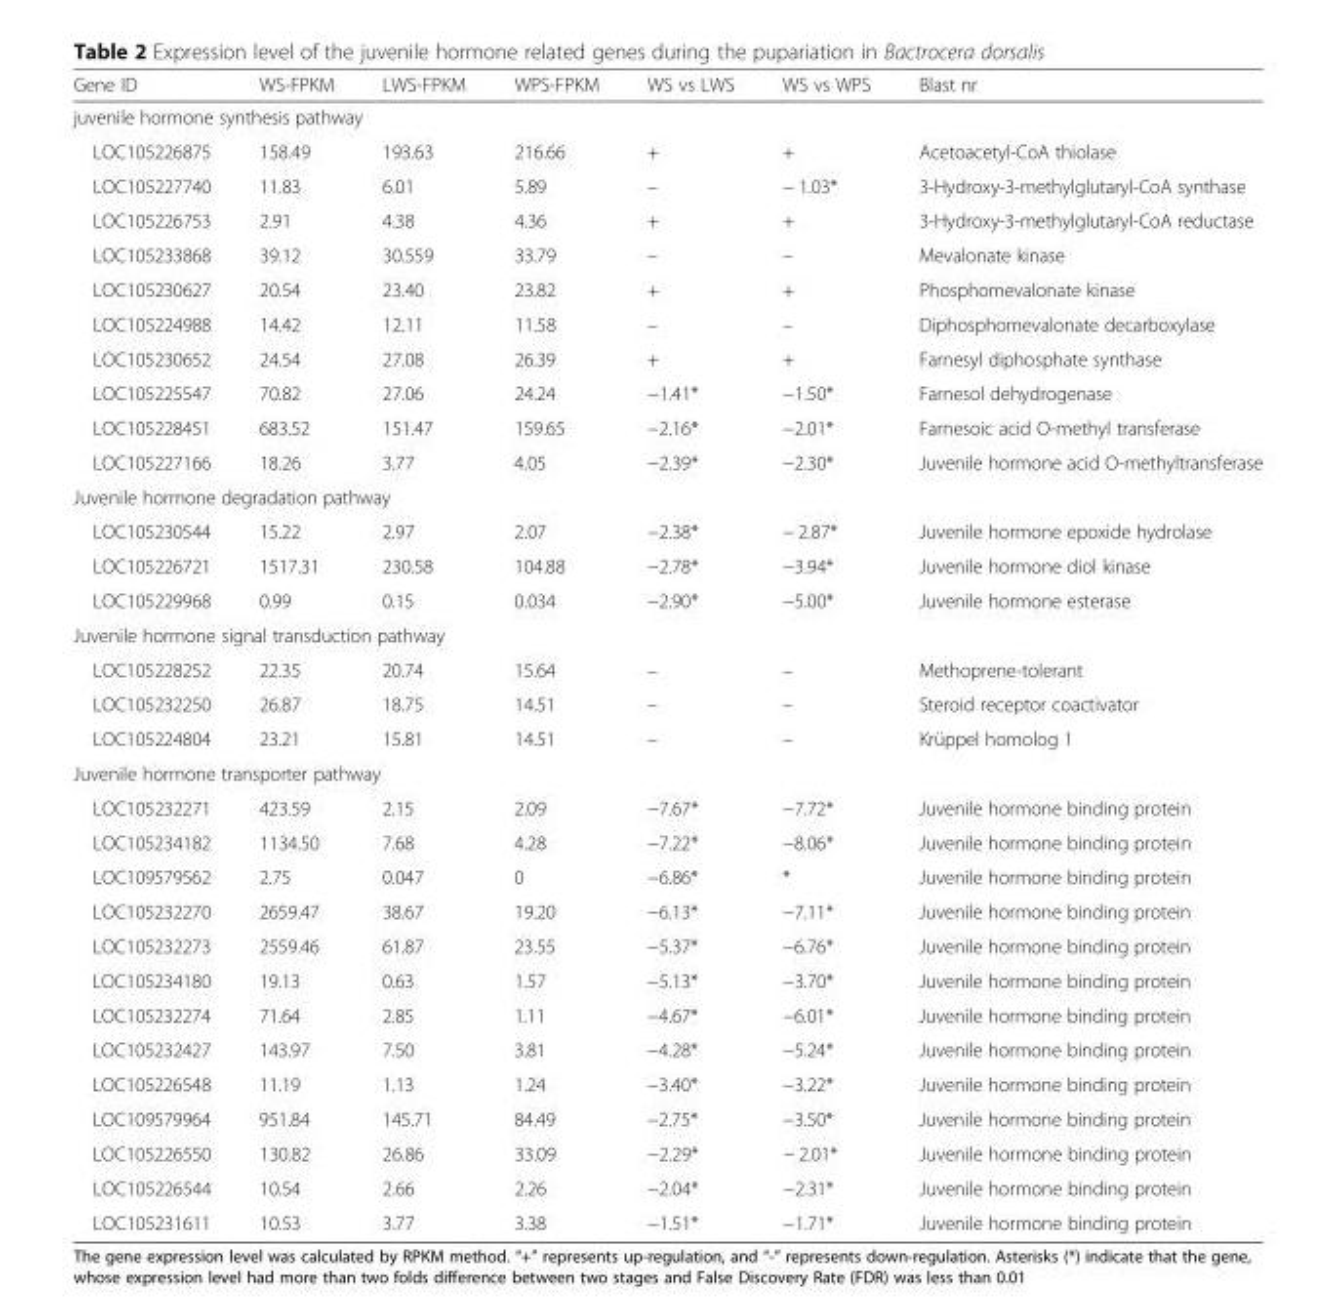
<table><thead><tr><td>Gene ID</td><td>WS-FPKM</td><td>LWS-FPKM</td><td>WPS-FPKM</td><td>WS vs LWS</td><td>WS vs WPS</td><td>Blast nr</td></tr></thead><tbody><tr><td colspan="7">juvenile hormone synthesis pathway</td></tr><tr><td>LOC105226875</td><td>158.49</td><td>193.63</td><td>216.66</td><td>+</td><td>+</td><td>Acetoacetyl-CoA thiolase</td></tr><tr><td>LOC105227740</td><td>11.83</td><td>6.01</td><td>5.89</td><td>–</td><td>− 1.03*</td><td>3-Hydroxy-3-methylglutaryl-CoA synthase</td></tr><tr><td>LOC105226753</td><td>2.91</td><td>4.38</td><td>4.36</td><td>+</td><td>+</td><td>3-Hydroxy-3-methylglutaryl-CoA reductase</td></tr><tr><td>LOC105233868</td><td>39.12</td><td>30.559</td><td>33.79</td><td>–</td><td>–</td><td>Mevalonate kinase</td></tr><tr><td>LOC105230627</td><td>20.54</td><td>23.40</td><td>23.82</td><td>+</td><td>+</td><td>Phosphomevalonate kinase</td></tr><tr><td>LOC105224988</td><td>14.42</td><td>12.11</td><td>11.58</td><td>–</td><td>–</td><td>Diphosphomevalonate decarboxylase</td></tr><tr><td>LOC105230652</td><td>24.54</td><td>27.08</td><td>26.39</td><td>+</td><td>+</td><td>Farnesyl diphosphate synthase</td></tr><tr><td>LOC105225547</td><td>70.82</td><td>27.06</td><td>24.24</td><td>−1.41*</td><td>−1.50*</td><td>Farnesol dehydrogenase</td></tr><tr><td>LOC105228451</td><td>683.52</td><td>151.47</td><td>159.65</td><td>−2.16*</td><td>−2.01*</td><td>Farnesoic acid O-methyl transferase</td></tr><tr><td>LOC105227166</td><td>18.26</td><td>3.77</td><td>4.05</td><td>−2.39*</td><td>−2.30*</td><td>Juvenile hormone acid O-methyltransferase</td></tr><tr><td colspan="7">Juvenile hormone degradation pathway</td></tr><tr><td>LOC105230544</td><td>15.22</td><td>2.97</td><td>2.07</td><td>−2.38*</td><td>− 2.87*</td><td>Juvenile hormone epoxide hydrolase</td></tr><tr><td>LOC105226721</td><td>1517.31</td><td>230.58</td><td>104.88</td><td>−2.78*</td><td>−3.94*</td><td>Juvenile hormone diol kinase</td></tr><tr><td>LOC105229968</td><td>0.99</td><td>0.15</td><td>0.034</td><td>−2.90*</td><td>−5.00*</td><td>Juvenile hormone esterase</td></tr><tr><td colspan="7">Juvenile hormone signal transduction pathway</td></tr><tr><td>LOC105228252</td><td>22.35</td><td>20.74</td><td>15.64</td><td>–</td><td>–</td><td>Methoprene-tolerant</td></tr><tr><td>LOC105232250</td><td>26.87</td><td>18.75</td><td>14.51</td><td>–</td><td>–</td><td>Steroid receptor coactivator</td></tr><tr><td>LOC105224804</td><td>23.21</td><td>15.81</td><td>14.51</td><td>–</td><td>–</td><td>Krüppel homolog 1</td></tr><tr><td colspan="7">Juvenile hormone transporter pathway</td></tr><tr><td>LOC105232271</td><td>423.59</td><td>2.15</td><td>2.09</td><td>−7.67*</td><td>−7.72*</td><td>Juvenile hormone binding protein</td></tr><tr><td>LOC105234182</td><td>1134.50</td><td>7.68</td><td>4.28</td><td>−7.22*</td><td>−8.06*</td><td>Juvenile hormone binding protein</td></tr><tr><td>LOC109579562</td><td>2.75</td><td>0.047</td><td>0</td><td>−6.86*</td><td>*</td><td>Juvenile hormone binding protein</td></tr><tr><td>LOC105232270</td><td>2659.47</td><td>38.67</td><td>19.20</td><td>−6.13*</td><td>−7.11*</td><td>Juvenile hormone binding protein</td></tr><tr><td>LOC105232273</td><td>2559.46</td><td>61.87</td><td>23.55</td><td>−5.37*</td><td>−6.76*</td><td>Juvenile hormone binding protein</td></tr><tr><td>LOC105234180</td><td>19.13</td><td>0.63</td><td>1.57</td><td>−5.13*</td><td>−3.70*</td><td>Juvenile hormone binding protein</td></tr><tr><td>LOC105232274</td><td>71.64</td><td>2.85</td><td>1.11</td><td>−4.67*</td><td>−6.01*</td><td>Juvenile hormone binding protein</td></tr><tr><td>LOC105232427</td><td>143.97</td><td>7.50</td><td>3.81</td><td>−4.28*</td><td>−5.24*</td><td>Juvenile hormone binding protein</td></tr><tr><td>LOC105226548</td><td>11.19</td><td>1.13</td><td>1.24</td><td>−3.40*</td><td>−3.22*</td><td>Juvenile hormone binding protein</td></tr><tr><td>LOC109579964</td><td>951.84</td><td>145.71</td><td>84.49</td><td>−2.75*</td><td>−3.50*</td><td>Juvenile hormone binding protein</td></tr><tr><td>LOC105226550</td><td>130.82</td><td>26.86</td><td>33.09</td><td>−2.29*</td><td>− 2.01*</td><td>Juvenile hormone binding protein</td></tr><tr><td>LOC105226544</td><td>10.54</td><td>2.66</td><td>2.26</td><td>−2.04*</td><td>−2.31*</td><td>Juvenile hormone binding protein</td></tr><tr><td>LOC105231611</td><td>10.53</td><td>3.77</td><td>3.38</td><td>−1.51*</td><td>−1.71*</td><td>Juvenile hormone binding protein</td></tr></tbody></table>